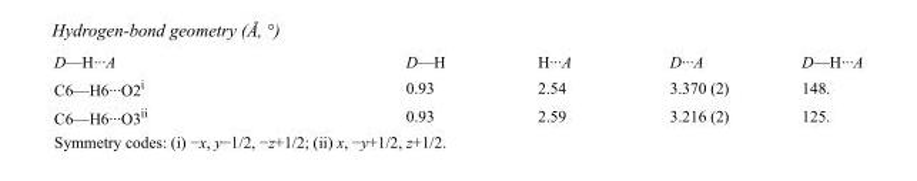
<table><tbody><tr><td>D—H···A</td><td>D—H</td><td>H···A</td><td>D···A</td><td>D—H···A</td></tr><tr><td>C6—H6···O2<sup>i</sup></td><td>0.93</td><td>2.54</td><td>3.370 (2)</td><td>148.</td></tr><tr><td>C6—H6···O3<sup>ii</sup></td><td>0.93</td><td>2.59</td><td>3.216 (2)</td><td>125.</td></tr></tbody></table>